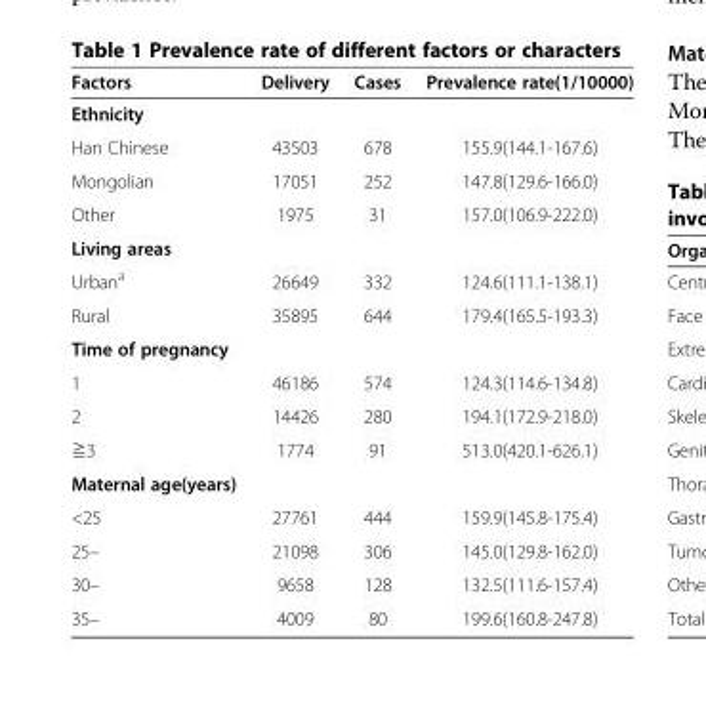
<table><thead><tr><td>Factors</td><td>Delivery</td><td>Cases</td><td>Prevalence rate(1/10000)</td></tr></thead><tbody><tr><td colspan="4">Ethnicity</td></tr><tr><td>Han Chinese</td><td>43503</td><td>678</td><td>155.9(144.1-167.6)</td></tr><tr><td>Mongolian</td><td>17051</td><td>252</td><td>147.8(129.6-166.0)</td></tr><tr><td>Other</td><td>1975</td><td>31</td><td>157.0(106.9-222.0)</td></tr><tr><td colspan="4">Living areas</td></tr><tr><td>Urban<sup>a</sup></td><td>26649</td><td>332</td><td>124.6(111.1-138.1)</td></tr><tr><td>Rural</td><td>35895</td><td>644</td><td>179.4(165.5-193.3)</td></tr><tr><td colspan="4">Time of pregnancy</td></tr><tr><td>1</td><td>46186</td><td>574</td><td>124.3(114.6-134.8)</td></tr><tr><td>2</td><td>14426</td><td>280</td><td>194.1(172.9-218.0)</td></tr><tr><td>≧3</td><td>1774</td><td>91</td><td>513.0(420.1-626.1)</td></tr><tr><td colspan="4">Maternal age(years)</td></tr><tr><td>&lt;25</td><td>27761</td><td>444</td><td>159.9(145.8-175.4)</td></tr><tr><td>25–</td><td>21098</td><td>306</td><td>145.0(129.8-162.0)</td></tr><tr><td>30–</td><td>9658</td><td>128</td><td>132.5(111.6-157.4)</td></tr><tr><td>35–</td><td>4009</td><td>80</td><td>199.6(160.8-247.8)</td></tr></tbody></table>